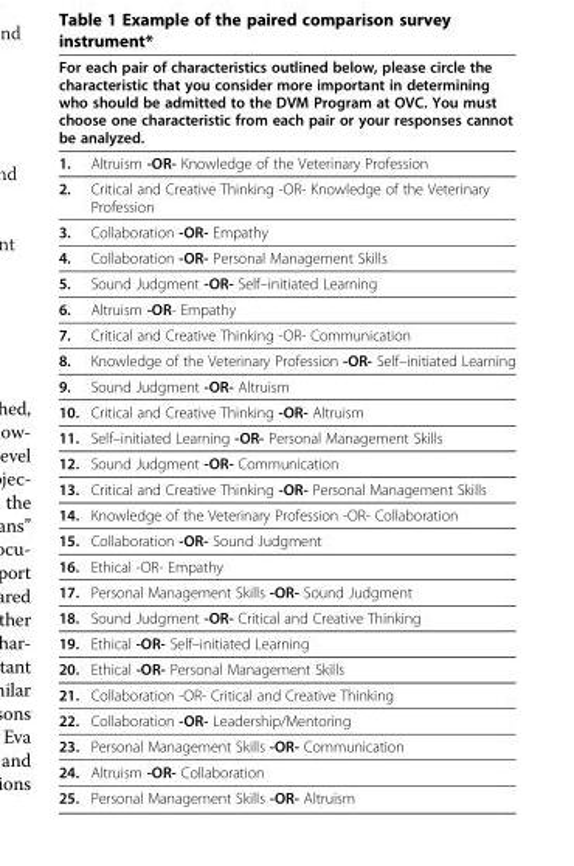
<table><thead><tr><td colspan="2">For each pair of characteristics outlined below, please circle the characteristic that you consider more important in determining who should be admitted to the DVM Program at OVC. You must choose one characteristic from each pair or your responses cannot be analyzed.</td></tr><tr><td>1.</td><td>Altruism -OR- Knowledge of the Veterinary Profession</td></tr></thead><tbody><tr><td>2.</td><td>Critical and Creative Thinking -OR- Knowledge of the Veterinary Profession</td></tr><tr><td>3.</td><td>Collaboration -OR- Empathy</td></tr><tr><td>4.</td><td>Collaboration -OR- Personal Management Skills</td></tr><tr><td>5.</td><td>Sound Judgment -OR- Self–initiated Learning</td></tr><tr><td>6.</td><td>Altruism -OR- Empathy</td></tr><tr><td>7.</td><td>Critical and Creative Thinking -OR- Communication</td></tr><tr><td>8.</td><td>Knowledge of the Veterinary Profession -OR- Self–initiated Learning</td></tr><tr><td>9.</td><td>Sound Judgment -OR- Altruism</td></tr><tr><td>10.</td><td>Critical and Creative Thinking -OR- Altruism</td></tr><tr><td>11.</td><td>Self–initiated Learning -OR- Personal Management Skills</td></tr><tr><td>12.</td><td>Sound Judgment -OR- Communication</td></tr><tr><td>13.</td><td>Critical and Creative Thinking -OR- Personal Management Skills</td></tr><tr><td>14.</td><td>Knowledge of the Veterinary Profession -OR- Collaboration</td></tr><tr><td>15.</td><td>Collaboration -OR- Sound Judgment</td></tr><tr><td>16.</td><td>Ethical -OR- Empathy</td></tr><tr><td>17.</td><td>Personal Management Skills -OR- Sound Judgment</td></tr><tr><td>18.</td><td>Sound Judgment -OR- Critical and Creative Thinking</td></tr><tr><td>19.</td><td>Ethical -OR- Self–initiated Learning</td></tr><tr><td>20.</td><td>Ethical -OR- Personal Management Skills</td></tr><tr><td>21.</td><td>Collaboration -OR- Critical and Creative Thinking</td></tr><tr><td>22.</td><td>Collaboration -OR- Leadership/Mentoring</td></tr><tr><td>23.</td><td>Personal Management Skills -OR- Communication</td></tr><tr><td>24.</td><td>Altruism -OR- Collaboration</td></tr><tr><td>25.</td><td>Personal Management Skills -OR- Altruism</td></tr></tbody></table>